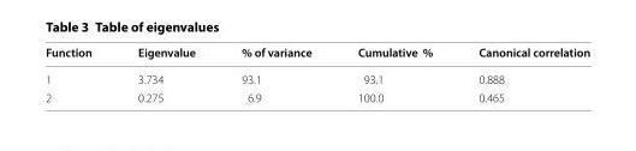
<table><thead><tr><td>Function</td><td>Eigenvalue</td><td>% of variance</td><td>Cumulative %</td><td>Canonical correlation</td></tr></thead><tbody><tr><td>1</td><td>3.734</td><td>93.1</td><td>93.1</td><td>0.888</td></tr><tr><td>2</td><td>0.275</td><td>6.9</td><td>100.0</td><td>0.465</td></tr></tbody></table>